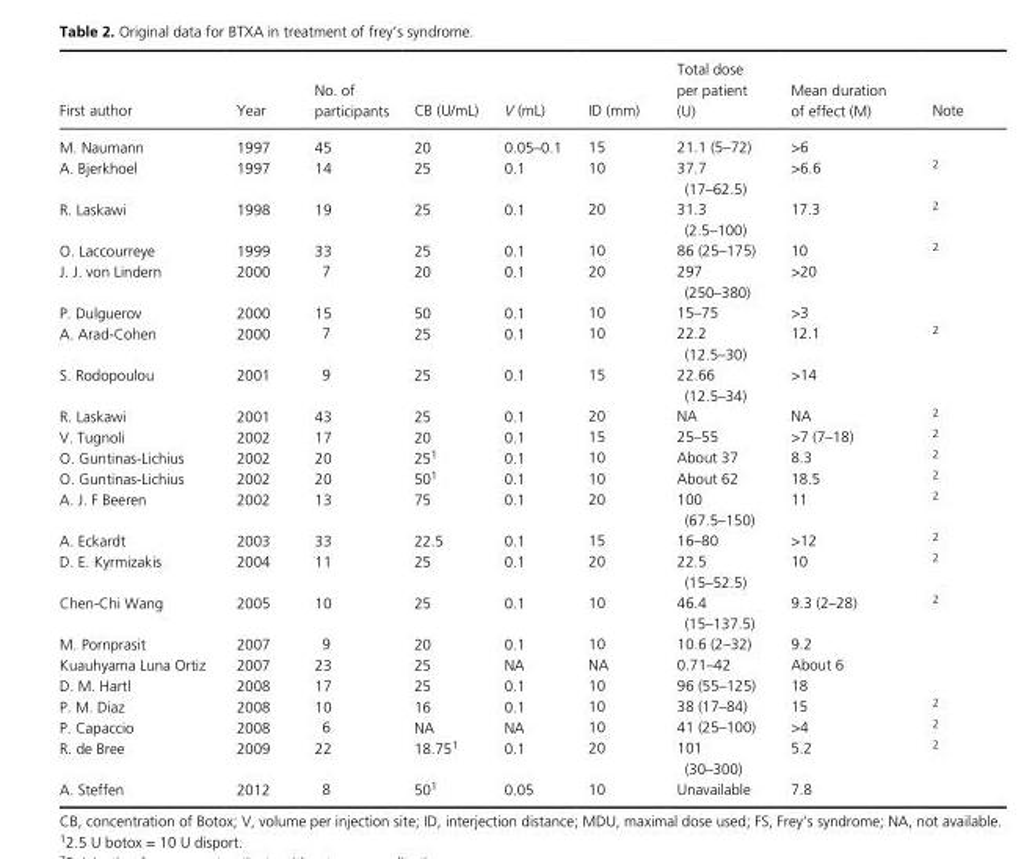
<table><thead><tr><td>First author</td><td>Year</td><td>No. of participants</td><td>CB (U/mL)</td><td>V (mL)</td><td>ID (mm)</td><td>Total dose per patient (U)</td><td>Mean duration of effect (M)</td><td>Note</td></tr></thead><tbody><tr><td>M. Naumann</td><td>1997</td><td>45</td><td>20</td><td>0.05–0.1</td><td>15</td><td>21.1 (5–72)</td><td>&gt;6</td><td></td></tr><tr><td>A. Bjerkhoel</td><td>1997</td><td>14</td><td>25</td><td>0.1</td><td>10</td><td>37.7 (17–62.5)</td><td>&gt;6.6</td><td>2</td></tr><tr><td>R. Laskawi</td><td>1998</td><td>19</td><td>25</td><td>0.1</td><td>20</td><td>31.3 (2.5–100)</td><td>17.3</td><td>2</td></tr><tr><td>O. Laccourreye</td><td>1999</td><td>33</td><td>25</td><td>0.1</td><td>10</td><td>86 (25–175)</td><td>10</td><td>2</td></tr><tr><td>J. J. von Lindern</td><td>2000</td><td>7</td><td>20</td><td>0.1</td><td>20</td><td>297 (250–380)</td><td>&gt;20</td><td></td></tr><tr><td>P. Dulguerov</td><td>2000</td><td>15</td><td>50</td><td>0.1</td><td>10</td><td>15–75</td><td>&gt;3</td><td></td></tr><tr><td>A. Arad- Cohen</td><td>2000</td><td>7</td><td>25</td><td>0.1</td><td>10</td><td>22.2 (12.5–30)</td><td>12.1</td><td>2</td></tr><tr><td>S. Rodopoulou</td><td>2001</td><td>9</td><td>25</td><td>0.1</td><td>15</td><td>22.66 (12.5–34)</td><td>&gt;14</td><td></td></tr><tr><td>R. Laskawi</td><td>2001</td><td>43</td><td>25</td><td>0.1</td><td>20</td><td>NA</td><td>NA</td><td>2</td></tr><tr><td>V. Tugnoli</td><td>2002</td><td>17</td><td>20</td><td>0.1</td><td>15</td><td>25–55</td><td>&gt;7 (7–18)</td><td>2</td></tr><tr><td>O. Guntinas- Lichius</td><td>2002</td><td>20</td><td>25<sup>1</sup></td><td>0.1</td><td>10</td><td>About 37</td><td>8.3</td><td>2</td></tr><tr><td>O. Guntinas- Lichius</td><td>2002</td><td>20</td><td>50<sup>1</sup></td><td>0.1</td><td>10</td><td>About 62</td><td>18.5</td><td>2</td></tr><tr><td>A. J. F Beeren</td><td>2002</td><td>13</td><td>75</td><td>0.1</td><td>20</td><td>100 (67.5–150)</td><td>11</td><td>2</td></tr><tr><td>A. Eckardt</td><td>2003</td><td>33</td><td>22.5</td><td>0.1</td><td>15</td><td>16–80</td><td>&gt;12</td><td>2</td></tr><tr><td>D. E. Kyrmizakis</td><td>2004</td><td>11</td><td>25</td><td>0.1</td><td>20</td><td>22.5 (15–52.5)</td><td>10</td><td>2</td></tr><tr><td>Chen- Chi Wang</td><td>2005</td><td>10</td><td>25</td><td>0.1</td><td>10</td><td>46.4 (15–137.5)</td><td>9.3 (2–28)</td><td>2</td></tr><tr><td>M. Pornprasit</td><td>2007</td><td>9</td><td>20</td><td>0.1</td><td>10</td><td>10.6 (2–32)</td><td>9.2</td><td></td></tr><tr><td>Kuauhyama Luna Ortiz</td><td>2007</td><td>23</td><td>25</td><td>NA</td><td>NA</td><td>0.71–42</td><td>About 6</td><td></td></tr><tr><td>D. M. Hartl</td><td>2008</td><td>17</td><td>25</td><td>0.1</td><td>10</td><td>96 (55–125)</td><td>18</td><td></td></tr><tr><td>P. M. Diaz</td><td>2008</td><td>10</td><td>16</td><td>0.1</td><td>10</td><td>38 (17–84)</td><td>15</td><td>2</td></tr><tr><td>P. Capaccio</td><td>2008</td><td>6</td><td>NA</td><td>NA</td><td>10</td><td>41 (25–100)</td><td>&gt;4</td><td>2</td></tr><tr><td>R. de Bree</td><td>2009</td><td>22</td><td>18.75<sup>1</sup></td><td>0.1</td><td>20</td><td>101 (30–300)</td><td>5.2</td><td>2</td></tr><tr><td>A. Steffen</td><td>2012</td><td>8</td><td>50<sup>1</sup></td><td>0.05</td><td>10</td><td>Unavailable</td><td>7.8</td><td></td></tr></tbody></table>